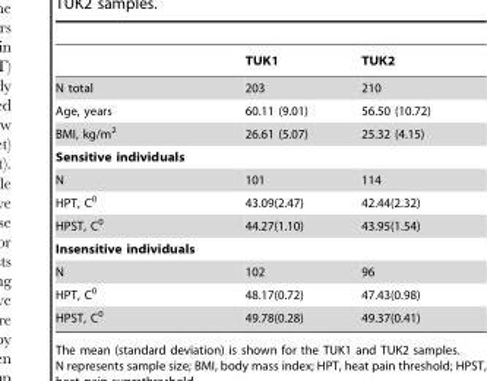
<table><thead><tr><td></td><td>TUK1</td><td>TUK2</td></tr></thead><tbody><tr><td>N total</td><td>203</td><td>210</td></tr><tr><td>Age, years</td><td>60.11 (9.01)</td><td>56.50 (10.72)</td></tr><tr><td>BMI, kg/m<sup>2</sup></td><td>26.61 (5.07)</td><td>25.32 (4.15)</td></tr><tr><td colspan="3">Sensitive individuals</td></tr><tr><td>N</td><td>101</td><td>114</td></tr><tr><td>HPT, C<sup>0</sup></td><td>43.09(2.47)</td><td>42.44(2.32)</td></tr><tr><td>HPST, C<sup>0</sup></td><td>44.27(1.10)</td><td>43.95(1.54)</td></tr><tr><td colspan="3">Insensitive individuals</td></tr><tr><td>N</td><td>102</td><td>96</td></tr><tr><td>HPT, C<sup>0</sup></td><td>48.17(0.72)</td><td>47.43(0.98)</td></tr><tr><td>HPST, C<sup>0</sup></td><td>49.78(0.28)</td><td>49.37(0.41)</td></tr></tbody></table>